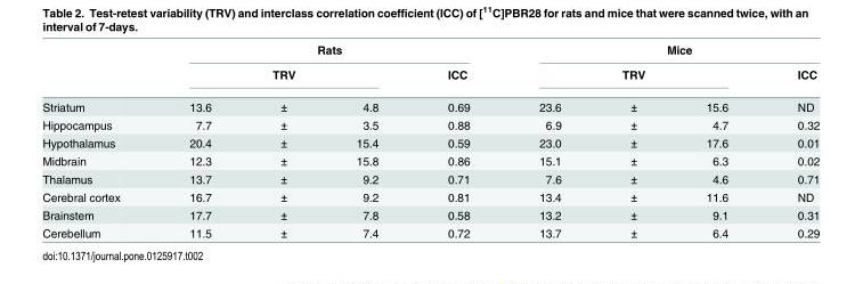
<table><thead><tr><td rowspan="3">Striatum</td><td colspan="4">Rats</td><td colspan="4">Mice</td></tr><tr><td colspan="3">TRV</td><td rowspan="2">ICC 0.69</td><td colspan="3">TRV</td><td rowspan="2">ICC ND</td></tr><tr><td>13.6</td><td>±</td><td>4.8</td><td>23.6</td><td>±</td><td>15.6</td></tr></thead><tbody><tr><td>Hippocampus</td><td>7.7</td><td>±</td><td>3.5</td><td>0.88</td><td>6.9</td><td>±</td><td>4.7</td><td>0.32</td></tr><tr><td>Hypothalamus</td><td>20.4</td><td>±</td><td>15.4</td><td>0.59</td><td>23.0</td><td>±</td><td>17.6</td><td>0.01</td></tr><tr><td>Midbrain</td><td>12.3</td><td>±</td><td>15.8</td><td>0.86</td><td>15.1</td><td>±</td><td>6.3</td><td>0.02</td></tr><tr><td>Thalamus</td><td>13.7</td><td>±</td><td>9.2</td><td>0.71</td><td>7.6</td><td>±</td><td>4.6</td><td>0.71</td></tr><tr><td>Cerebral cortex</td><td>16.7</td><td>±</td><td>9.2</td><td>0.81</td><td>13.4</td><td>±</td><td>11.6</td><td>ND</td></tr><tr><td>Brainstem</td><td>17.7</td><td>±</td><td>7.8</td><td>0.58</td><td>13.2</td><td>±</td><td>9.1</td><td>0.31</td></tr><tr><td>Cerebellum</td><td>11.5</td><td>±</td><td>7.4</td><td>0.72</td><td>13.7</td><td>±</td><td>6.4</td><td>0.29</td></tr></tbody></table>